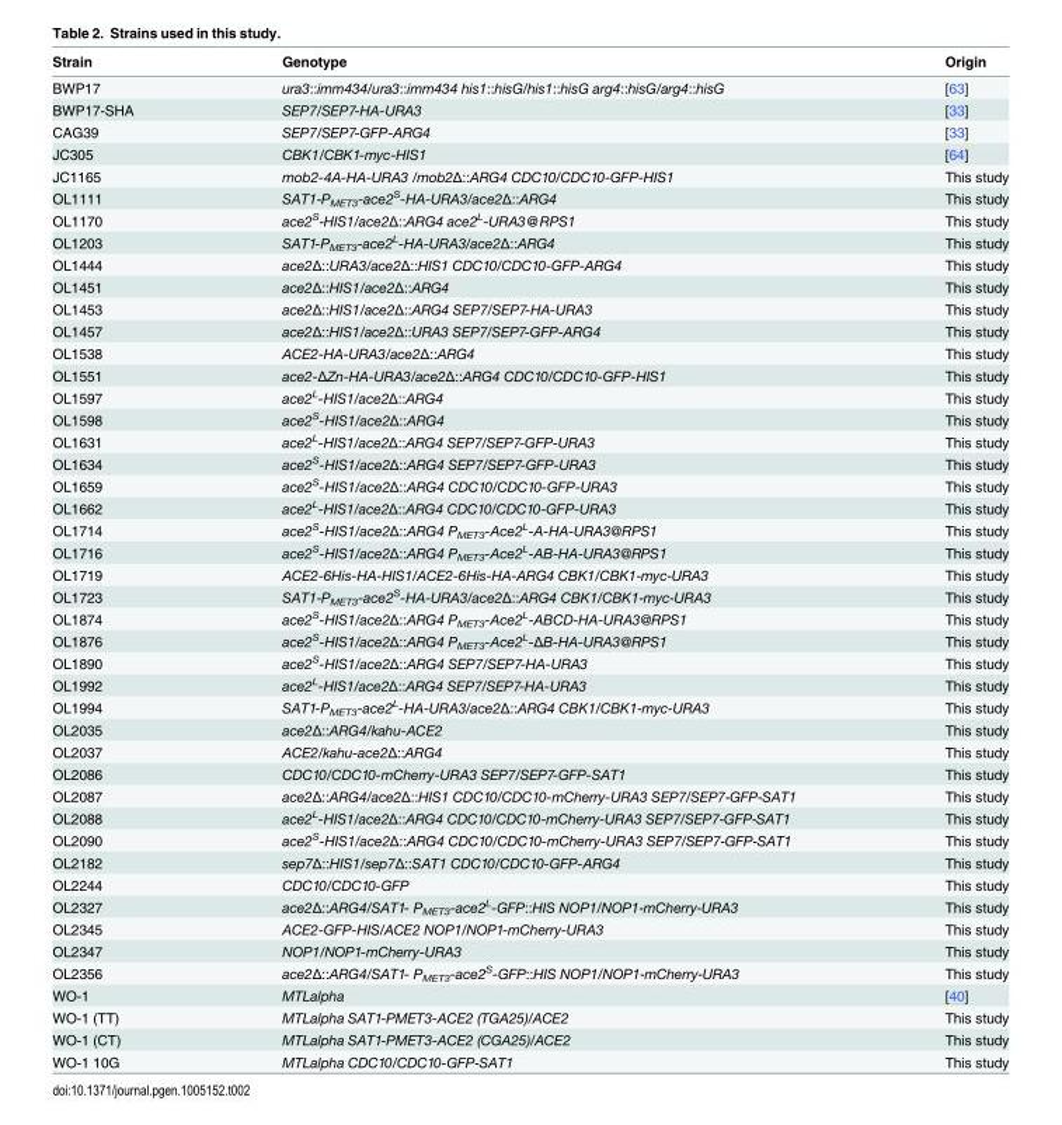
<table><thead><tr><td>Strain</td><td>Genotype</td><td>Origin</td></tr></thead><tbody><tr><td>BWP17</td><td>ura3::imm434/ura3::imm434 his1::hisG/his1::hisG arg4::hisG/arg4::hisG</td><td>[63]</td></tr><tr><td>BWP17-SHA</td><td>SEP7/SEP7-HA-URA3</td><td>[33]</td></tr><tr><td>CAG39</td><td>SEP7/SEP7-GFP-ARG4</td><td>[33]</td></tr><tr><td>JC305</td><td>CBK1/CBK1-myc-HIS1</td><td>[64]</td></tr><tr><td>JC1165</td><td>mob2-4A-HA-URA3 /mob2Δ::ARG4 CDC10/CDC10-GFP-HIS1</td><td>This study</td></tr><tr><td>OL1111</td><td>SAT1-P<sub>MET3</sub>-ace2<sup>S</sup>-HA-URA3/ace2Δ::ARG4</td><td>This study</td></tr><tr><td>OL1170</td><td>ace2<sup>S</sup>-HIS1/ace2Δ::ARG4 ace2<sup>L</sup>-URA3@RPS1</td><td>This study</td></tr><tr><td>OL1203</td><td>SAT1-P<sub>MET3</sub>-ace2<sup>L</sup>-HA-URA3/ace2Δ::ARG4</td><td>This study</td></tr><tr><td>OL1444</td><td>ace2Δ::URA3/ace2Δ::HIS1 CDC10/CDC10-GFP-ARG4</td><td>This study</td></tr><tr><td>OL1451</td><td>ace2Δ::HIS1/ace2Δ::ARG4</td><td>This study</td></tr><tr><td>OL1453</td><td>ace2Δ::HIS1/ace2Δ::ARG4 SEP7/SEP7-HA-URA3</td><td>This study</td></tr><tr><td>OL1457</td><td>ace2Δ::HIS1/ace2Δ::URA3 SEP7/SEP7-GFP-ARG4</td><td>This study</td></tr><tr><td>OL1538</td><td>ACE2-HA-URA3/ace2Δ::ARG4</td><td>This study</td></tr><tr><td>OL1551</td><td>ace2-ΔZn-HA-URA3/ace2Δ::ARG4 CDC10/CDC10-GFP-HIS1</td><td>This study</td></tr><tr><td>OL1597</td><td>ace2<sup>L</sup>-HIS1/ace2Δ::ARG4</td><td>This study</td></tr><tr><td>OL1598</td><td>ace2<sup>S</sup>-HIS1/ace2Δ::ARG4</td><td>This study</td></tr><tr><td>OL1631</td><td>ace2<sup>L</sup>-HIS1/ace2Δ::ARG4 SEP7/SEP7-GFP-URA3</td><td>This study</td></tr><tr><td>OL1634</td><td>ace2<sup>S</sup>-HIS1/ace2Δ::ARG4 SEP7/SEP7-GFP-URA3</td><td>This study</td></tr><tr><td>OL1659</td><td>ace2<sup>S</sup>-HIS1/ace2Δ::ARG4 CDC10/CDC10-GFP-URA3</td><td>This study</td></tr><tr><td>OL1662</td><td>ace2<sup>L</sup>-HIS1/ace2Δ::ARG4 CDC10/CDC10-GFP-URA3</td><td>This study</td></tr><tr><td>OL1714</td><td>ace2<sup>S</sup>-HIS1/ace2Δ::ARG4 P<sub>MET3</sub>-Ace2<sup>L</sup>-A-HA-URA3@RPS1</td><td>This study</td></tr><tr><td>OL1716</td><td>ace2<sup>S</sup>-HIS1/ace2Δ::ARG4 P<sub>MET3</sub>-Ace2<sup>L</sup>-AB-HA-URA3@RPS1</td><td>This study</td></tr><tr><td>OL1719</td><td>ACE2-6His-HA-HIS1/ACE2-6His-HA-ARG4 CBK1/CBK1-myc-URA3</td><td>This study</td></tr><tr><td>OL1723</td><td>SAT1-P<sub>MET3</sub>-ace2<sup>S</sup>-HA-URA3/ace2Δ::ARG4 CBK1/CBK1-myc-URA3</td><td>This study</td></tr><tr><td>OL1874</td><td>ace2<sup>S</sup>-HIS1/ace2Δ::ARG4 P<sub>MET3</sub>-Ace2<sup>L</sup>-ABCD-HA-URA3@RPS1</td><td>This study</td></tr><tr><td>OL1876</td><td>ace2<sup>S</sup>-HIS1/ace2Δ::ARG4 P<sub>MET3</sub>-Ace2<sup>L</sup>-ΔB-HA-URA3@RPS1</td><td>This study</td></tr><tr><td>OL1890</td><td>ace2<sup>S</sup>-HIS1/ace2Δ::ARG4 SEP7/SEP7-HA-URA3</td><td>This study</td></tr><tr><td>OL1992</td><td>ace2<sup>L</sup>-HIS1/ace2Δ::ARG4 SEP7/SEP7-HA-URA3</td><td>This study</td></tr><tr><td>OL1994</td><td>SAT1-P<sub>MET3</sub>-ace2<sup>L</sup>-HA-URA3/ace2Δ::ARG4 CBK1/CBK1-myc-URA3</td><td>This study</td></tr><tr><td>OL2035</td><td>ace2Δ::ARG4/kahu-ACE2</td><td>This study</td></tr><tr><td>OL2037</td><td>ACE2/kahu-ace2Δ::ARG4</td><td>This study</td></tr><tr><td>OL2086</td><td>CDC10/CDC10-mCherry-URA3 SEP7/SEP7-GFP-SAT1</td><td>This study</td></tr><tr><td>OL2087</td><td>ace2Δ::ARG4/ace2Δ::HIS1 CDC10/CDC10-mCherry-URA3 SEP7/SEP7-GFP-SAT1</td><td>This study</td></tr><tr><td>OL2088</td><td>ace2<sup>L</sup>-HIS1/ace2Δ::ARG4 CDC10/CDC10-mCherry-URA3 SEP7/SEP7-GFP-SAT1</td><td>This study</td></tr><tr><td>OL2090</td><td>ace2<sup>S</sup>-HIS1/ace2Δ::ARG4 CDC10/CDC10-mCherry-URA3 SEP7/SEP7-GFP-SAT1</td><td>This study</td></tr><tr><td>OL2182</td><td>sep7Δ::HIS1/sep7Δ::SAT1 CDC10/CDC10-GFP-ARG4</td><td>This study</td></tr><tr><td>OL2244</td><td>CDC10/CDC10-GFP</td><td>This study</td></tr><tr><td>OL2327</td><td>ace2Δ::ARG4/SAT1- P<sub>MET3</sub>-ace2<sup>L</sup>-GFP::HIS NOP1/NOP1-mCherry-URA3</td><td>This study</td></tr><tr><td>OL2345</td><td>ACE2-GFP-HIS/ACE2 NOP1/NOP1-mCherry-URA3</td><td>This study</td></tr><tr><td>OL2347</td><td>NOP1/NOP1-mCherry-URA3</td><td>This study</td></tr><tr><td>OL2356</td><td>ace2Δ::ARG4/SAT1- P<sub>MET3</sub>-ace2<sup>S</sup>-GFP::HIS NOP1/NOP1-mCherry-URA3</td><td>This study</td></tr><tr><td>WO-1</td><td>MTLalpha</td><td>[40]</td></tr><tr><td>WO-1 (TT)</td><td>MTLalpha SAT1-PMET3-ACE2 (TGA25)/ACE2</td><td>This study</td></tr><tr><td>WO-1 (CT)</td><td>MTLalpha SAT1-PMET3-ACE2 (CGA25)/ACE2</td><td>This study</td></tr><tr><td>WO-1 10G</td><td>MTLalpha CDC10/CDC10-GFP-SAT1</td><td>This study</td></tr></tbody></table>